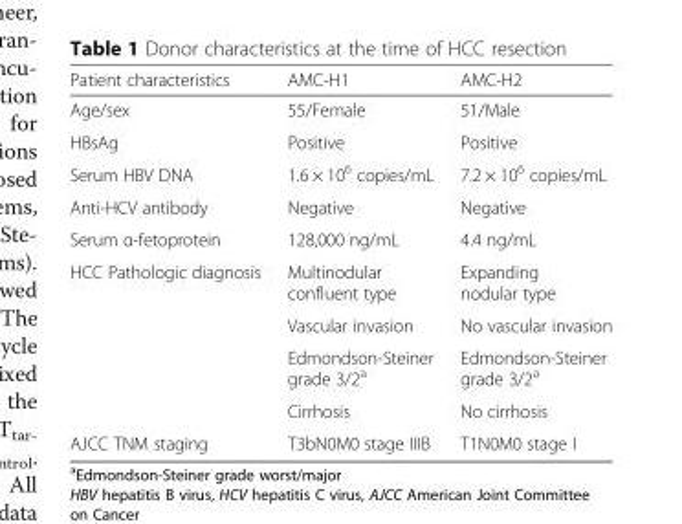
<table><thead><tr><td>Patient characteristics</td><td>AMC-H1</td><td>AMC-H2</td></tr></thead><tbody><tr><td>Age/sex</td><td>55/Female</td><td>51/Male</td></tr><tr><td>HBsAg</td><td>Positive</td><td>Positive</td></tr><tr><td>Serum HBV DNA</td><td>1.6 × 10<sup>6</sup> copies/mL</td><td>7.2 × 10<sup>6</sup> copies/mL</td></tr><tr><td>Anti-HCV antibody</td><td>Negative</td><td>Negative</td></tr><tr><td>Serum α-fetoprotein</td><td>128,000 ng/mL</td><td>4.4 ng/mL</td></tr><tr><td rowspan="4">HCC Pathologic diagnosis</td><td>Multinodular confluent type</td><td>Expanding nodular type</td></tr><tr><td>Vascular invasion</td><td>No vascular invasion</td></tr><tr><td>Edmondson-Steiner grade 3/2<sup>a</sup></td><td>Edmondson-Steiner grade 3/2<sup>a</sup></td></tr><tr><td>Cirrhosis</td><td>No cirrhosis</td></tr><tr><td>AJCC TNM staging</td><td>T3bN0M0 stage IIIB</td><td>T1N0M0 stage I</td></tr></tbody></table>